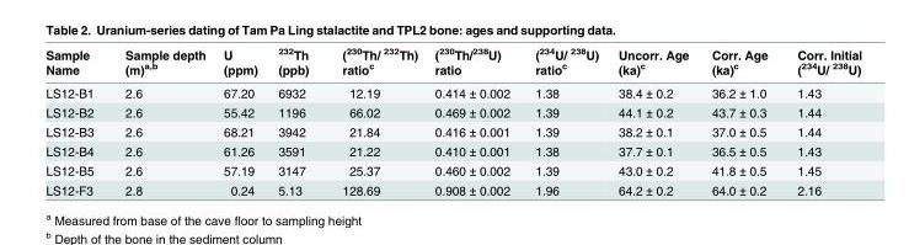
<table><thead><tr><td>Sample Name</td><td>Sample depth (m)<sup>a,b</sup></td><td>U (ppm)</td><td><sup>232</sup>Th (ppb)</td><td>(<sup>230</sup>Th/ <sup>232</sup>Th) ratio<sup>c</sup></td><td>(<sup>230</sup>Th/<sup>238</sup>U) ratio</td><td>(<sup>234</sup>U/ <sup>238</sup>U) ratio<sup>c</sup></td><td>Uncorr. Age (ka)<sup>c</sup></td><td>Corr. Age (ka)<sup>c</sup></td><td>Corr. Initial (<sup>234</sup>U/ <sup>238</sup>U)</td></tr></thead><tbody><tr><td>LS12-B1</td><td>2.6</td><td>67.20</td><td>6932</td><td>12.19</td><td>0.414 ± 0.002</td><td>1.38</td><td>38.4 ± 0.2</td><td>36.2 ± 1.0</td><td>1.43</td></tr><tr><td>LS12-B2</td><td>2.6</td><td>55.42</td><td>1196</td><td>66.02</td><td>0.469 ± 0.002</td><td>1.39</td><td>44.1 ± 0.2</td><td>43.7 ± 0.3</td><td>1.44</td></tr><tr><td>LS12-B3</td><td>2.6</td><td>68.21</td><td>3942</td><td>21.84</td><td>0.416 ± 0.001</td><td>1.39</td><td>38.2 ± 0.1</td><td>37.0 ± 0.5</td><td>1.44</td></tr><tr><td>LS12-B4</td><td>2.6</td><td>61.26</td><td>3591</td><td>21.22</td><td>0.410 ± 0.001</td><td>1.38</td><td>37.7 ± 0.1</td><td>36.5 ± 0.5</td><td>1.43</td></tr><tr><td>LS12-B5</td><td>2.6</td><td>57.19</td><td>3147</td><td>25.37</td><td>0.460 ± 0.002</td><td>1.39</td><td>43.0 ± 0.2</td><td>41.8 ± 0.5</td><td>1.45</td></tr><tr><td>LS12-F3</td><td>2.8</td><td>0.24</td><td>5.13</td><td>128.69</td><td>0.908 ± 0.002</td><td>1.96</td><td>64.2 ± 0.2</td><td>64.0 ± 0.2</td><td>2.16</td></tr></tbody></table>